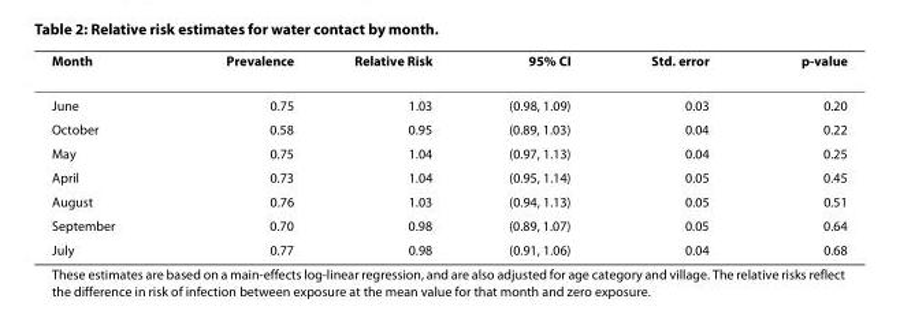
<table><thead><tr><td>Month</td><td>Prevalence</td><td>Relative Risk</td><td>95% CI</td><td>Std. error</td><td>p-value</td></tr></thead><tbody><tr><td>June</td><td>0.75</td><td>1.03</td><td>(0.98, 1.09)</td><td>0.03</td><td>0.20</td></tr><tr><td>October</td><td>0.58</td><td>0.95</td><td>(0.89, 1.03)</td><td>0.04</td><td>0.22</td></tr><tr><td>May</td><td>0.75</td><td>1.04</td><td>(0.97, 1.13)</td><td>0.04</td><td>0.25</td></tr><tr><td>April</td><td>0.73</td><td>1.04</td><td>(0.95, 1.14)</td><td>0.05</td><td>0.45</td></tr><tr><td>August</td><td>0.76</td><td>1.03</td><td>(0.94, 1.13)</td><td>0.05</td><td>0.51</td></tr><tr><td>September</td><td>0.70</td><td>0.98</td><td>(0.89, 1.07)</td><td>0.05</td><td>0.64</td></tr><tr><td>July</td><td>0.77</td><td>0.98</td><td>(0.91, 1.06)</td><td>0.04</td><td>0.68</td></tr></tbody></table>